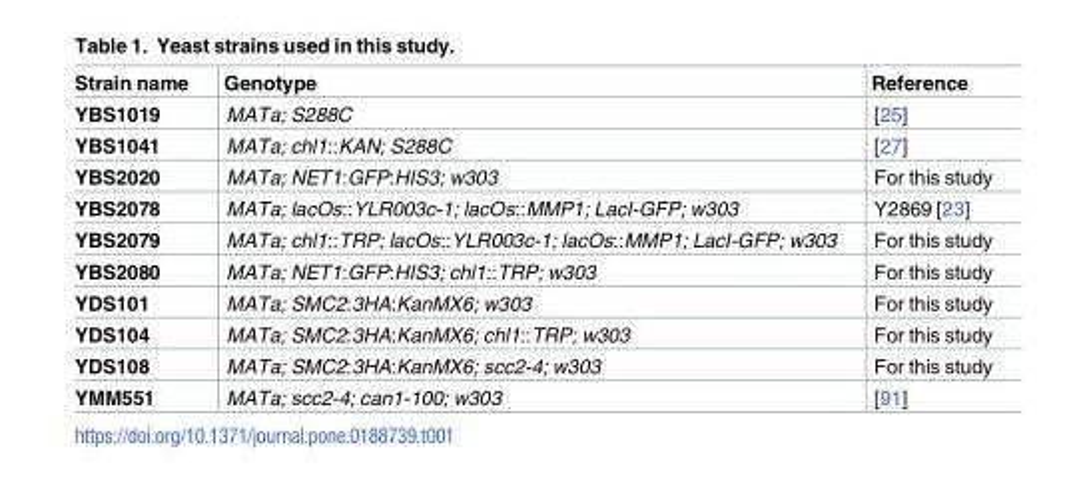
<table><thead><tr><td>Strain name</td><td>Genotype</td><td>Reference</td></tr></thead><tbody><tr><td>YBS1019</td><td>MATa; S288C</td><td>[25]</td></tr><tr><td>YBS1041</td><td>MATa; chl1::KAN; S288C</td><td>[27]</td></tr><tr><td>YBS2020</td><td>MATa; NET1:GFP:HIS3; w303</td><td>For this study</td></tr><tr><td>YBS2078</td><td>MATa; lacOs::YLR003c-1; lacOs::MMP1; LacI-GFP; w303</td><td>Y2869 [23]</td></tr><tr><td>YBS2079</td><td>MATa; chl1::TRP; lacOs::YLR003c-1; lacOs::MMP1; LacI-GFP; w303</td><td>For this study</td></tr><tr><td>YBS2080</td><td>MATa; NET1:GFP:HIS3; chl1::TRP; w303</td><td>For this study</td></tr><tr><td>YDS101</td><td>MATa; SMC2:3HA:KanMX6; w303</td><td>For this study</td></tr><tr><td>YDS104</td><td>MATa; SMC2:3HA:KanMX6; chl1::TRP; w303</td><td>For this study</td></tr><tr><td>YDS108</td><td>MATa; SMC2:3HA:KanMX6; scc2-4; w303</td><td>For this study</td></tr><tr><td>YMM551</td><td>MATa; scc2-4; can1-100; w303</td><td>[91]</td></tr></tbody></table>